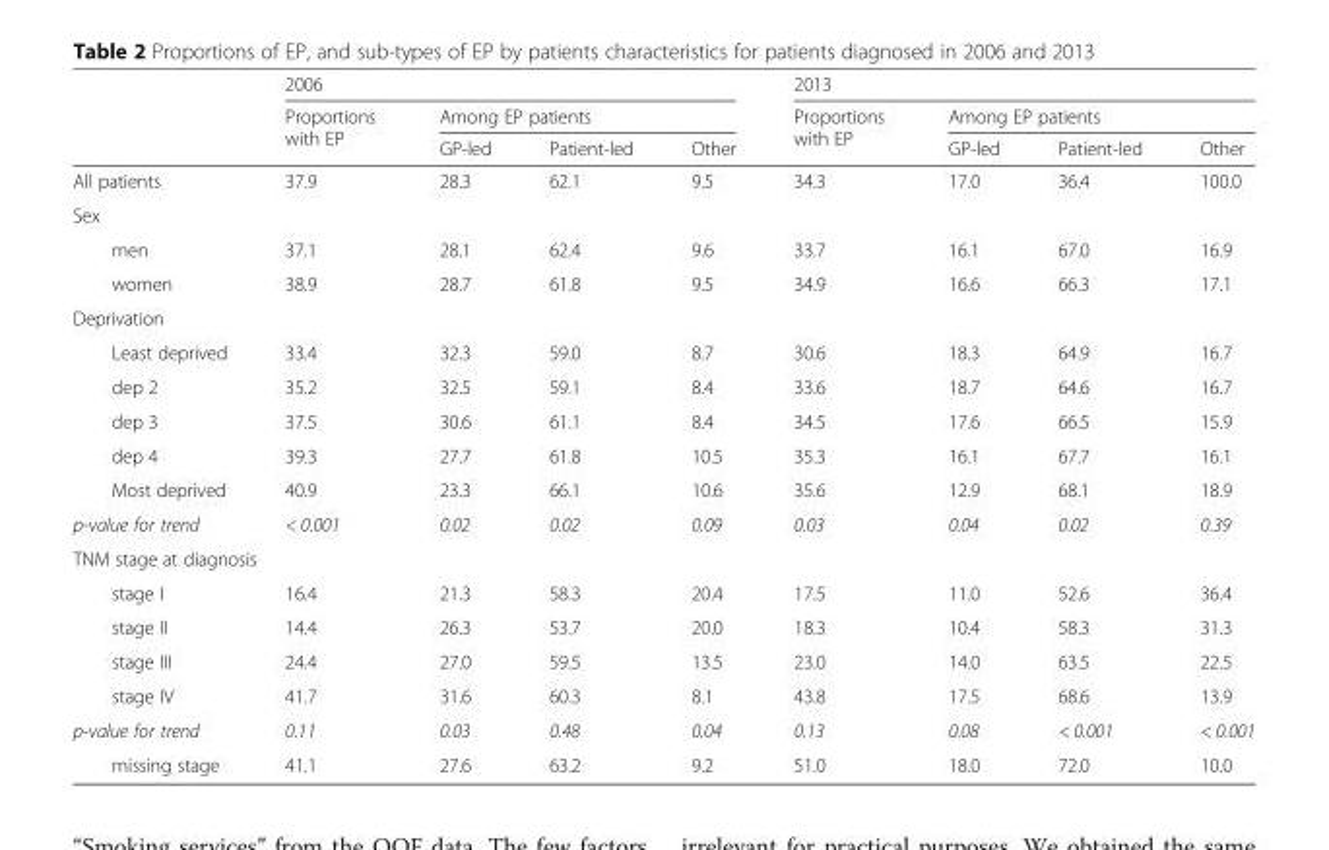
<table><thead><tr><td rowspan="3"></td><td colspan="4">2006</td><td colspan="4">2013</td></tr><tr><td rowspan="2">Proportions with EP</td><td colspan="3">Among EP patients</td><td rowspan="2">Proportions with EP</td><td colspan="3">Among EP patients</td></tr><tr><td>GP-led</td><td>Patient-led</td><td>Other</td><td>GP-led</td><td>Patient-led</td><td>Other</td></tr></thead><tbody><tr><td>All patients</td><td>37.9</td><td>28.3</td><td>62.1</td><td>9.5</td><td>34.3</td><td>17.0</td><td>36.4</td><td>100.0</td></tr><tr><td colspan="9">Sex</td></tr><tr><td>men</td><td>37.1</td><td>28.1</td><td>62.4</td><td>9.6</td><td>33.7</td><td>16.1</td><td>67.0</td><td>16.9</td></tr><tr><td>women</td><td>38.9</td><td>28.7</td><td>61.8</td><td>9.5</td><td>34.9</td><td>16.6</td><td>66.3</td><td>17.1</td></tr><tr><td colspan="9">Deprivation</td></tr><tr><td>Least deprived</td><td>33.4</td><td>32.3</td><td>59.0</td><td>8.7</td><td>30.6</td><td>18.3</td><td>64.9</td><td>16.7</td></tr><tr><td>dep 2</td><td>35.2</td><td>32.5</td><td>59.1</td><td>8.4</td><td>33.6</td><td>18.7</td><td>64.6</td><td>16.7</td></tr><tr><td>dep 3</td><td>37.5</td><td>30.6</td><td>61.1</td><td>8.4</td><td>34.5</td><td>17.6</td><td>66.5</td><td>15.9</td></tr><tr><td>dep 4</td><td>39.3</td><td>27.7</td><td>61.8</td><td>10.5</td><td>35.3</td><td>16.1</td><td>67.7</td><td>16.1</td></tr><tr><td>Most deprived</td><td>40.9</td><td>23.3</td><td>66.1</td><td>10.6</td><td>35.6</td><td>12.9</td><td>68.1</td><td>18.9</td></tr><tr><td>p-value for trend</td><td>&lt; 0.001</td><td>0.02</td><td>0.02</td><td>0.09</td><td>0.03</td><td>0.04</td><td>0.02</td><td>0.39</td></tr><tr><td colspan="9">TNM stage at diagnosis</td></tr><tr><td>stage I</td><td>16.4</td><td>21.3</td><td>58.3</td><td>20.4</td><td>17.5</td><td>11.0</td><td>52.6</td><td>36.4</td></tr><tr><td>stage II</td><td>14.4</td><td>26.3</td><td>53.7</td><td>20.0</td><td>18.3</td><td>10.4</td><td>58.3</td><td>31.3</td></tr><tr><td>stage III</td><td>24.4</td><td>27.0</td><td>59.5</td><td>13.5</td><td>23.0</td><td>14.0</td><td>63.5</td><td>22.5</td></tr><tr><td>stage IV</td><td>41.7</td><td>31.6</td><td>60.3</td><td>8.1</td><td>43.8</td><td>17.5</td><td>68.6</td><td>13.9</td></tr><tr><td>p-value for trend</td><td>0.11</td><td>0.03</td><td>0.48</td><td>0.04</td><td>0.13</td><td>0.08</td><td>&lt; 0.001</td><td>&lt; 0.001</td></tr><tr><td>missing stage</td><td>41.1</td><td>27.6</td><td>63.2</td><td>9.2</td><td>51.0</td><td>18.0</td><td>72.0</td><td>10.0</td></tr></tbody></table>